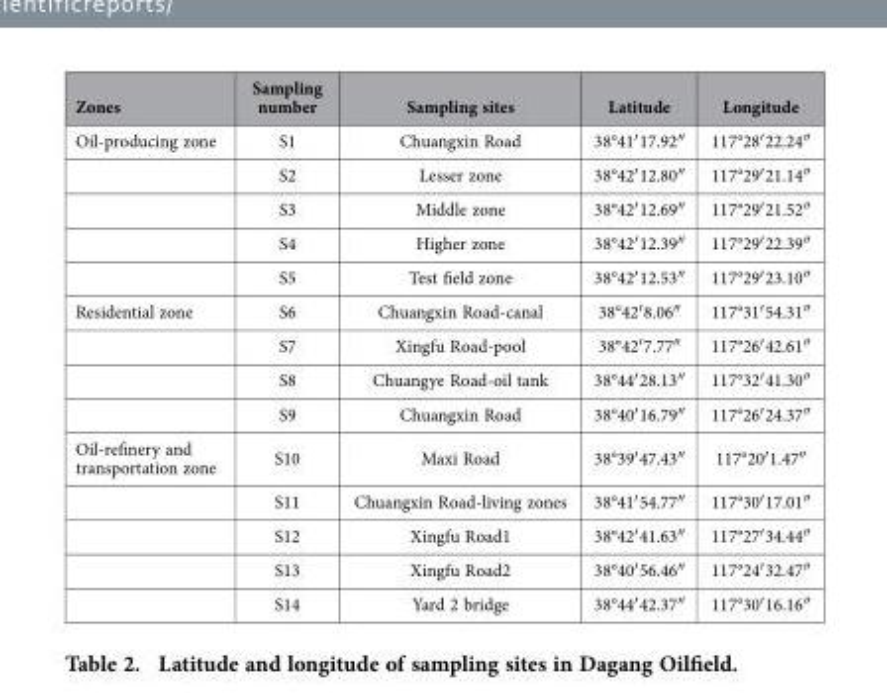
<table><thead><tr><td>Zones</td><td>Sampling number</td><td>Sampling sites</td><td>Latitude</td><td>Longitude</td></tr></thead><tbody><tr><td rowspan="5">Oil-producing zone</td><td>S1</td><td>Chuangxin Road</td><td>38°41′ 17.92″</td><td>117°28′ 22.24″</td></tr><tr><td>S2</td><td>Lesser zone</td><td>38°42′ 12.80″</td><td>117°29′ 21.14″</td></tr><tr><td>S3</td><td>Middle zone</td><td>38°42′ 12.69″</td><td>117°29′ 21.52″</td></tr><tr><td>S4</td><td>Higher zone</td><td>38°42′ 12.39″</td><td>117°29′ 22.39″</td></tr><tr><td>S5</td><td>Test field zone</td><td>38°42′ 12.53″</td><td>117°29′ 23.10″</td></tr><tr><td rowspan="4">Residential zone</td><td>S6</td><td>Chuangxin Road-canal</td><td>38°42′ 8.06″</td><td>117°31′ 54.31″</td></tr><tr><td>S7</td><td>Xingfu Road-pool</td><td>38°42′ 7.77″</td><td>117°26′ 42.61″</td></tr><tr><td>S8</td><td>Chuangye Road-oil tank</td><td>38°44′ 28.13″</td><td>117°32′ 41.30″</td></tr><tr><td>S9</td><td>Chuangxin Road</td><td>38°40′ 16.79″</td><td>117°26′ 24.37″</td></tr><tr><td rowspan="5">Oil-refinery and transportation zone</td><td>S10</td><td>Maxi Road</td><td>38°39′ 47.43″</td><td>117°20′ 1.47″</td></tr><tr><td>S11</td><td>Chuangxin Road-living zones</td><td>38°41′ 54.77″</td><td>117°30′ 17.01″</td></tr><tr><td>S12</td><td>Xingfu Road1</td><td>38°42′ 41.63″</td><td>117°27′ 34.44″</td></tr><tr><td>S13</td><td>Xingfu Road2</td><td>38°40′ 56.46″</td><td>117°24′ 32.47″</td></tr><tr><td>S14</td><td>Yard 2 bridge</td><td>38°44′ 42.37″</td><td>117°30′ 16.16″</td></tr></tbody></table>